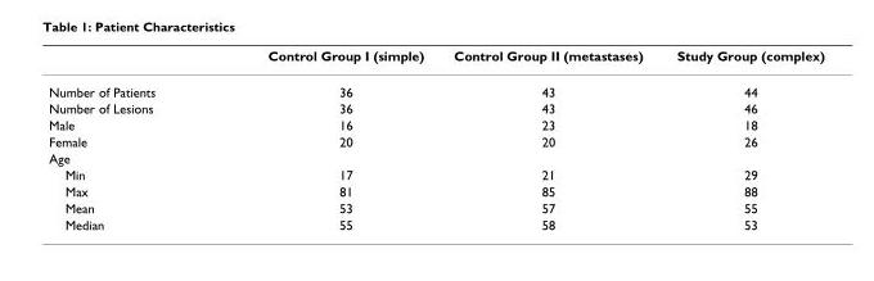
<table><thead><tr><td></td><td>Control Group I (simple)</td><td>Control Group II (metastases)</td><td>Study Group (complex)</td></tr></thead><tbody><tr><td>Number of Patients</td><td>36</td><td>43</td><td>44</td></tr><tr><td>Number of Lesions</td><td>36</td><td>43</td><td>46</td></tr><tr><td>Male</td><td>16</td><td>23</td><td>18</td></tr><tr><td>Female</td><td>20</td><td>20</td><td>26</td></tr><tr><td colspan="4">Age</td></tr><tr><td>Min</td><td>17</td><td>21</td><td>29</td></tr><tr><td>Max</td><td>81</td><td>85</td><td>88</td></tr><tr><td>Mean</td><td>53</td><td>57</td><td>55</td></tr><tr><td>Median</td><td>55</td><td>58</td><td>53</td></tr></tbody></table>